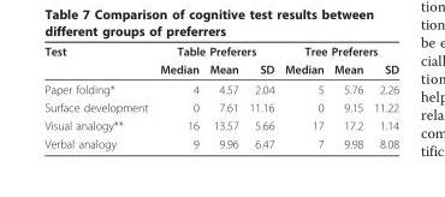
<table><thead><tr><td rowspan="2">Test</td><td colspan="3">Table Preferers</td><td colspan="3">Tree Preferers</td></tr><tr><td>Median</td><td>Mean</td><td>SD</td><td>Median</td><td>Mean</td><td>SD</td></tr></thead><tbody><tr><td>Paper folding*</td><td>4</td><td>4.57</td><td>2.04</td><td>5</td><td>5.76</td><td>2.26</td></tr><tr><td>Surface development</td><td>0</td><td>7.61</td><td>11.16</td><td>0</td><td>9.15</td><td>11.22</td></tr><tr><td>Visual analogy**</td><td>16</td><td>13.57</td><td>5.66</td><td>17</td><td>17.2</td><td>1.14</td></tr><tr><td>Verbal analogy</td><td>9</td><td>9.96</td><td>6.47</td><td>7</td><td>9.98</td><td>8.08</td></tr></tbody></table>